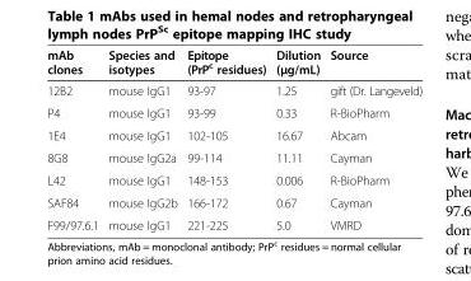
<table><thead><tr><td>mAb clones</td><td>Species and isotypes</td><td>Epitope (PrP<sup>c</sup> residues)</td><td>Dilution (μg/mL)</td><td>Source</td></tr></thead><tbody><tr><td>12B2</td><td>mouse IgG1</td><td>93-97</td><td>1.25</td><td>gift (Dr. Langeveld)</td></tr><tr><td>P4</td><td>mouse IgG1</td><td>93-99</td><td>0.33</td><td>R-BioPharm</td></tr><tr><td>1E4</td><td>mouse IgG1</td><td>102-105</td><td>16.67</td><td>Abcam</td></tr><tr><td>8G8</td><td>mouse IgG2a</td><td>99-114</td><td>11.11</td><td>Cayman</td></tr><tr><td>L42</td><td>mouse IgG1</td><td>148-153</td><td>0.006</td><td>R-BioPharm</td></tr><tr><td>SAF84</td><td>mouse IgG2b</td><td>166-172</td><td>0.67</td><td>Cayman</td></tr><tr><td>F99/97.6.1</td><td>mouse IgG1</td><td>221-225</td><td>5.0</td><td>VMRD</td></tr></tbody></table>